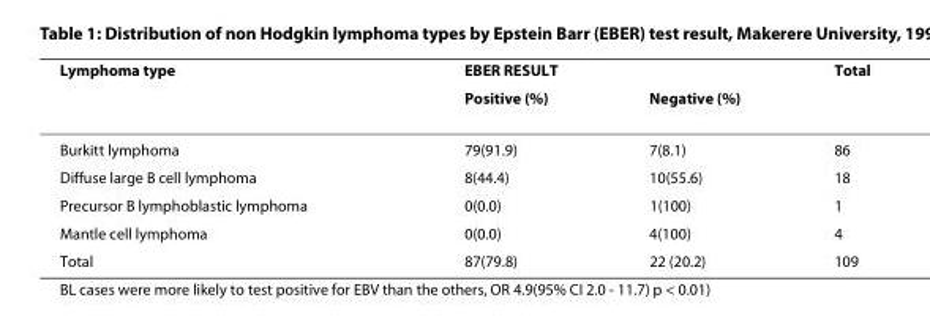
<table><thead><tr><td rowspan="2">Lymphoma type</td><td colspan="2">EBER RESULT</td><td rowspan="2">Total</td></tr><tr><td>Positive (%)</td><td>Negative (%)</td></tr></thead><tbody><tr><td>Burkitt lymphoma</td><td>79(91.9)</td><td>7(8.1)</td><td>86</td></tr><tr><td>Diffuse large B cell lymphoma</td><td>8(44.4)</td><td>10(55.6)</td><td>18</td></tr><tr><td>Precursor B lymphoblastic lymphoma</td><td>0(0.0)</td><td>1(100)</td><td>1</td></tr><tr><td>Mantle cell lymphoma</td><td>0(0.0)</td><td>4(100)</td><td>4</td></tr><tr><td>Total</td><td>87(79.8)</td><td>22 (20.2)</td><td>109</td></tr></tbody></table>